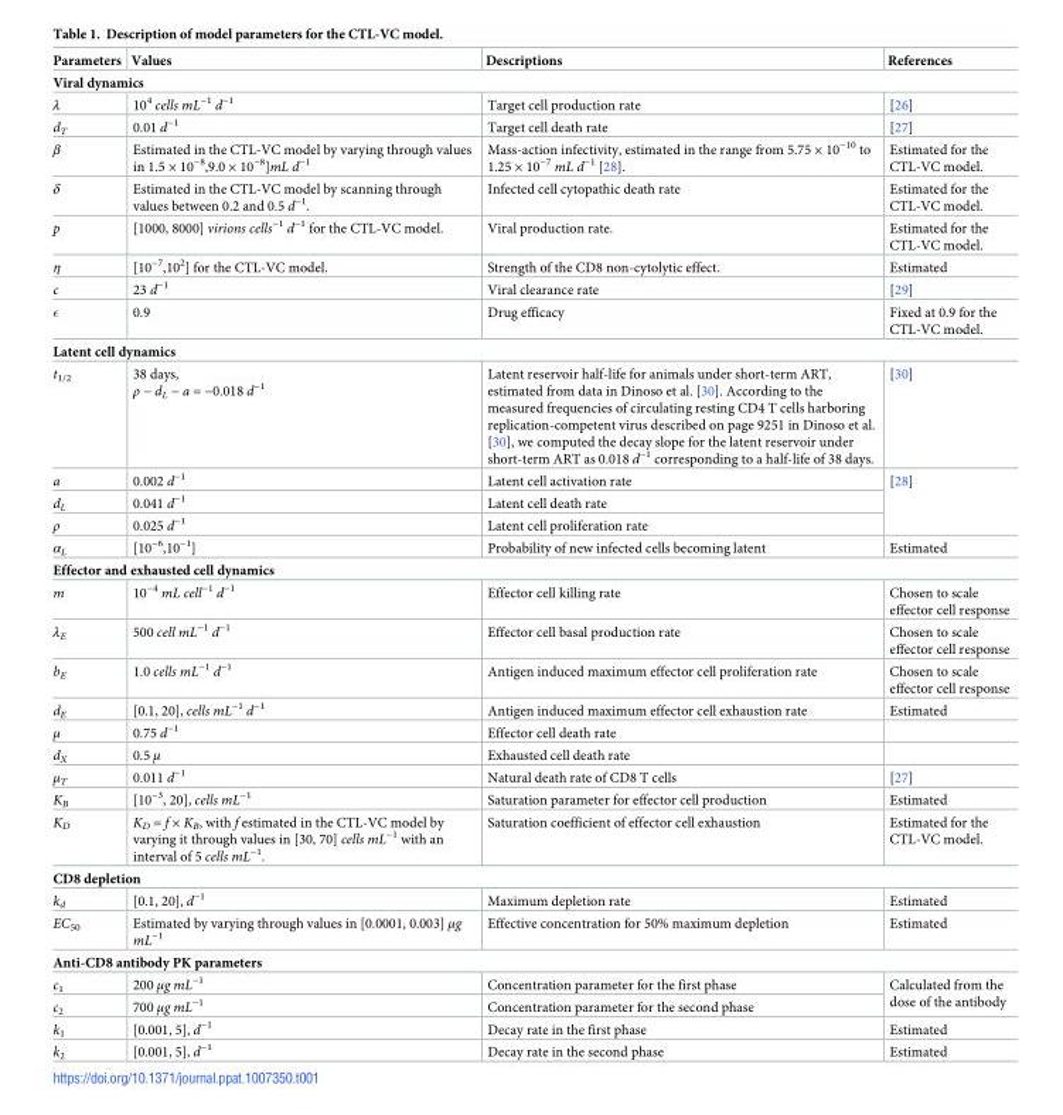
<table><thead><tr><td>Parameters</td><td>Values</td><td>Descriptions</td><td>References</td></tr></thead><tbody><tr><td colspan="4">Viral dynamics</td></tr><tr><td>λ</td><td>10<sup>4</sup> cells mL<sup>−1</sup> d<sup>−1</sup></td><td>Target cell production rate</td><td>[26]</td></tr><tr><td>d<sub>T</sub></td><td>0.01 d<sup>−1</sup></td><td>Target cell death rate</td><td>[27]</td></tr><tr><td>β</td><td>Estimated in the CTL-VC model by varying through values in 1.5 × 10<sup>−8</sup>,9.0 × 10<sup>−8</sup>]mL d<sup>−1</sup></td><td>Mass-action infectivity, estimated in the range from 5.75 × 10<sup>−10</sup> to 1.25 × 10<sup>−7</sup> mL d<sup>−1</sup> [28].</td><td>Estimated for the CTL-VC model.</td></tr><tr><td>δ</td><td>Estimated in the CTL-VC model by scanning through values between 0.2 and 0.5 d<sup>−1</sup>.</td><td>Infected cell cytopathic death rate</td><td>Estimated for the CTL-VC model.</td></tr><tr><td>p</td><td>[1000, 8000] virions cells<sup>−1</sup> d<sup>−1</sup> for the CTL-VC model.</td><td>Viral production rate.</td><td>Estimated for the CTL-VC model.</td></tr><tr><td>η</td><td>[10<sup>−7</sup>,10<sup>2</sup>] for the CTL-VC model.</td><td>Strength of the CD8 non-cytolytic effect.</td><td>Estimated</td></tr><tr><td>c</td><td>23 d<sup>−1</sup></td><td>Viral clearance rate</td><td>[29]</td></tr><tr><td>ϵ</td><td>0.9</td><td>Drug efficacy</td><td>Fixed at 0.9 for the CTL-VC model.</td></tr><tr><td colspan="4">Latent cell dynamics</td></tr><tr><td>t<sub>1/2</sub></td><td>38 days, ρ − d<sub>L</sub> − a = −0.018 d<sup>−1</sup></td><td>Latent reservoir half-life for animals under short-term ART, estimated from data in Dinoso et al. [30]. According to the measured frequencies of circulating resting CD4 T cells harboring replication-competent virus described on page 9251 in Dinoso et al. [30], we computed the decay slope for the latent reservoir under short-term ART as 0.018 d<sup>−1</sup> corresponding to a half-life of 38 days.</td><td>[30]</td></tr><tr><td>a</td><td>0.002 d<sup>−1</sup></td><td>Latent cell activation rate</td><td rowspan="3">[28]</td></tr><tr><td>d<sub>L</sub></td><td>0.041 d<sup>−1</sup></td><td>Latent cell death rate</td></tr><tr><td>ρ</td><td>0.025 d<sup>−1</sup></td><td>Latent cell proliferation rate</td></tr><tr><td>α<sub>L</sub></td><td>[10<sup>−6</sup>,10<sup>−1</sup>]</td><td>Probability of new infected cells becoming latent</td><td>Estimated</td></tr><tr><td colspan="4">Effector and exhausted cell dynamics</td></tr><tr><td>m</td><td>10<sup>−4</sup> mL cell<sup>−1</sup> d<sup>−1</sup></td><td>Effector cell killing rate</td><td>Chosen to scale effector cell response</td></tr><tr><td>λ<sub>E</sub></td><td>500 cell mL<sup>−1</sup> d<sup>−1</sup></td><td>Effector cell basal production rate</td><td>Chosen to scale effector cell response</td></tr><tr><td>b<sub>E</sub></td><td>1.0 cells mL<sup>−1</sup> d<sup>−1</sup></td><td>Antigen induced maximum effector cell proliferation rate</td><td>Chosen to scale effector cell response</td></tr><tr><td>d<sub>E</sub></td><td>[0.1, 20], cells mL<sup>−1</sup> d<sup>−1</sup></td><td>Antigen induced maximum effector cell exhaustion rate</td><td>Estimated</td></tr><tr><td>μ</td><td>0.75 d<sup>−1</sup></td><td>Effector cell death rate</td><td></td></tr><tr><td>d<sub>X</sub></td><td>0.5 μ</td><td>Exhausted cell death rate</td><td></td></tr><tr><td>μ<sub>T</sub></td><td>0.011 d<sup>−1</sup></td><td>Natural death rate of CD8 T cells</td><td>[27]</td></tr><tr><td>K<sub>B</sub></td><td>[10<sup>−3</sup>, 20], cells mL<sup>−1</sup></td><td>Saturation parameter for effector cell production</td><td>Estimated</td></tr><tr><td>K<sub>D</sub></td><td>K<sub>D</sub> = f × K<sub>B</sub>, with f estimated in the CTL-VC model by varying it through values in [30, 70] cells mL<sup>−1</sup> with an interval of 5 cells mL<sup>−1</sup>.</td><td>Saturation coefficient of effector cell exhaustion</td><td>Estimated for the CTL-VC model.</td></tr><tr><td colspan="4">CD8 depletion</td></tr><tr><td>k<sub>d</sub></td><td>[0.1, 20], d<sup>−1</sup></td><td>Maximum depletion rate</td><td>Estimated</td></tr><tr><td>EC<sub>50</sub></td><td>Estimated by varying through values in [0.0001, 0.003] μg mL<sup>−1</sup></td><td>Effective concentration for 50% maximum depletion</td><td>Estimated</td></tr><tr><td colspan="4">Anti-CD8 antibody PK parameters</td></tr><tr><td>c<sub>1</sub></td><td>200 μg mL<sup>−1</sup></td><td>Concentration parameter for the first phase</td><td rowspan="2">Calculated from the dose of the antibody</td></tr><tr><td>c<sub>2</sub></td><td>700 μg mL<sup>−1</sup></td><td>Concentration parameter for the second phase</td></tr><tr><td>k<sub>1</sub></td><td>[0.001, 5], d<sup>−1</sup></td><td>Decay rate in the first phase</td><td>Estimated</td></tr><tr><td>k<sub>2</sub></td><td>[0.001, 5], d<sup>−1</sup></td><td>Decay rate in the second phase</td><td>Estimated</td></tr></tbody></table>